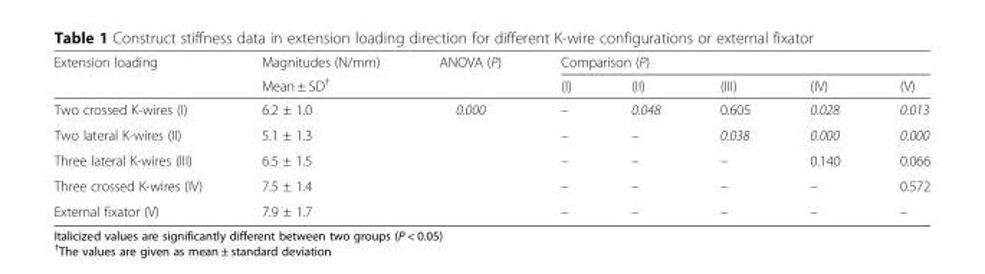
<table><thead><tr><td rowspan="2">Extension loading</td><td rowspan="2">Magnitudes (N/mm) Mean ± SD<sup>†</sup></td><td rowspan="2">ANOVA (P)</td><td colspan="5">Comparison (P)</td></tr><tr><td>(I)</td><td>(II)</td><td>(III)</td><td>(IV)</td><td>(V)</td></tr></thead><tbody><tr><td>Two crossed K-wires (I)</td><td>6.2 ± 1.0</td><td rowspan="5">0.000</td><td>–</td><td>0.048</td><td>0.605</td><td>0.028</td><td>0.013</td></tr><tr><td>Two lateral K-wires (II)</td><td>5.1 ± 1.3</td><td>–</td><td>–</td><td>0.038</td><td>0.000</td><td>0.000</td></tr><tr><td>Three lateral K-wires (III)</td><td>6.5 ± 1.5</td><td>–</td><td>–</td><td>–</td><td>0.140</td><td>0.066</td></tr><tr><td>Three crossed K-wires (IV)</td><td>7.5 ± 1.4</td><td>–</td><td>–</td><td>–</td><td>–</td><td>0.572</td></tr><tr><td>External fixator (V)</td><td>7.9 ± 1.7</td><td>–</td><td>–</td><td>–</td><td>–</td><td>–</td></tr></tbody></table>